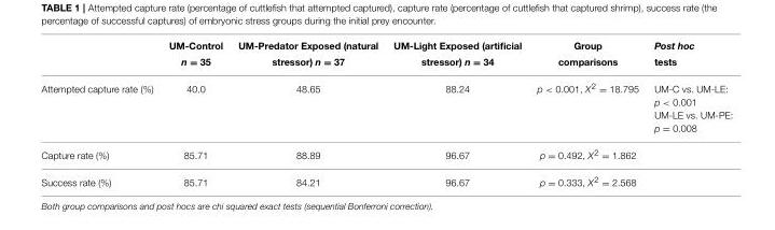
<table><thead><tr><td></td><td>UM-Control n = 35</td><td>UM-Predator Exposed (natural stressor) n = 37</td><td>UM-Light Exposed (artificial stressor) n = 34</td><td>Group comparisons</td><td>Post hoc tests</td></tr></thead><tbody><tr><td>Attempted capture rate (%)</td><td>40.0</td><td>48.65</td><td>88.24</td><td>p &lt; 0.001, X<sup>2</sup> = 18.795</td><td>UM-C vs. UM-LE: p &lt; 0.001 UM-LE vs. UM-PE: p = 0.008</td></tr><tr><td>Capture rate (%)</td><td>85.71</td><td>88.89</td><td>96.67</td><td>p = 0.492, X<sup>2</sup> = 1.862</td><td></td></tr><tr><td>Success rate (%)</td><td>85.71</td><td>84.21</td><td>96.67</td><td>p = 0.333, X<sup>2</sup> = 2.568</td><td></td></tr></tbody></table>